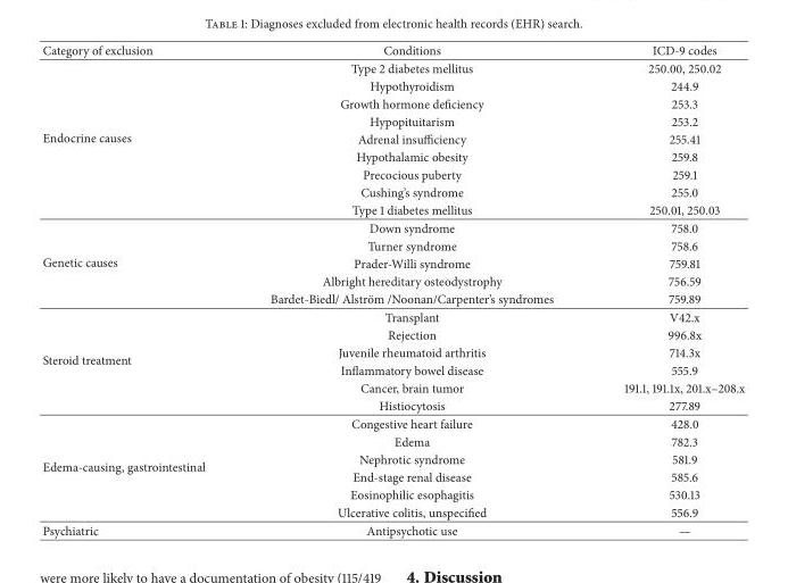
<table><thead><tr><td>Category of exclusion</td><td>Conditions</td><td>ICD-9 codes</td></tr></thead><tbody><tr><td rowspan="9">Endocrine causes</td><td>Type 2 diabetes mellitus</td><td>250.00, 250.02</td></tr><tr><td>Hypothyroidism</td><td>244.9</td></tr><tr><td>Growth hormone deficiency</td><td>253.3</td></tr><tr><td>Hypopituitarism</td><td>253.2</td></tr><tr><td>Adrenal insufficiency</td><td>255.41</td></tr><tr><td>Hypothalamic obesity</td><td>259.8</td></tr><tr><td>Precocious puberty</td><td>259.1</td></tr><tr><td>Cushing’s syndrome</td><td>255.0</td></tr><tr><td>Type 1 diabetes mellitus</td><td>250.01, 250.03</td></tr><tr><td rowspan="5">Genetic causes</td><td>Down syndrome</td><td>758.0</td></tr><tr><td>Turner syndrome</td><td>758.6</td></tr><tr><td>Prader-Willi syndrome</td><td>759.81</td></tr><tr><td>Albright hereditary osteodystrophy</td><td>756.59</td></tr><tr><td>Bardet-Biedl/ Alstr¨om /Noonan/Carpenter’s syndromes</td><td>759.89</td></tr><tr><td rowspan="6">Steroid treatment</td><td>Transplant</td><td>V42.x</td></tr><tr><td>Rejection</td><td>996.8x</td></tr><tr><td>Juvenile rheumatoid arthritis</td><td>714.3x</td></tr><tr><td>Inflammatory bowel disease</td><td>555.9</td></tr><tr><td>Cancer, brain tumor</td><td>191.1, 191.1x, 201.x–208.x</td></tr><tr><td>Histiocytosis</td><td>277.89</td></tr><tr><td rowspan="6">Edema-causing, gastrointestinal</td><td>Congestive heart failure</td><td>428.0</td></tr><tr><td>Edema</td><td>782.3</td></tr><tr><td>Nephrotic syndrome</td><td>581.9</td></tr><tr><td>End-stage renal disease</td><td>585.6</td></tr><tr><td>Eosinophilic esophagitis</td><td>530.13</td></tr><tr><td>Ulcerative colitis, unspecified</td><td>556.9</td></tr><tr><td>Psychiatric</td><td>Antipsychotic use</td><td>—</td></tr></tbody></table>